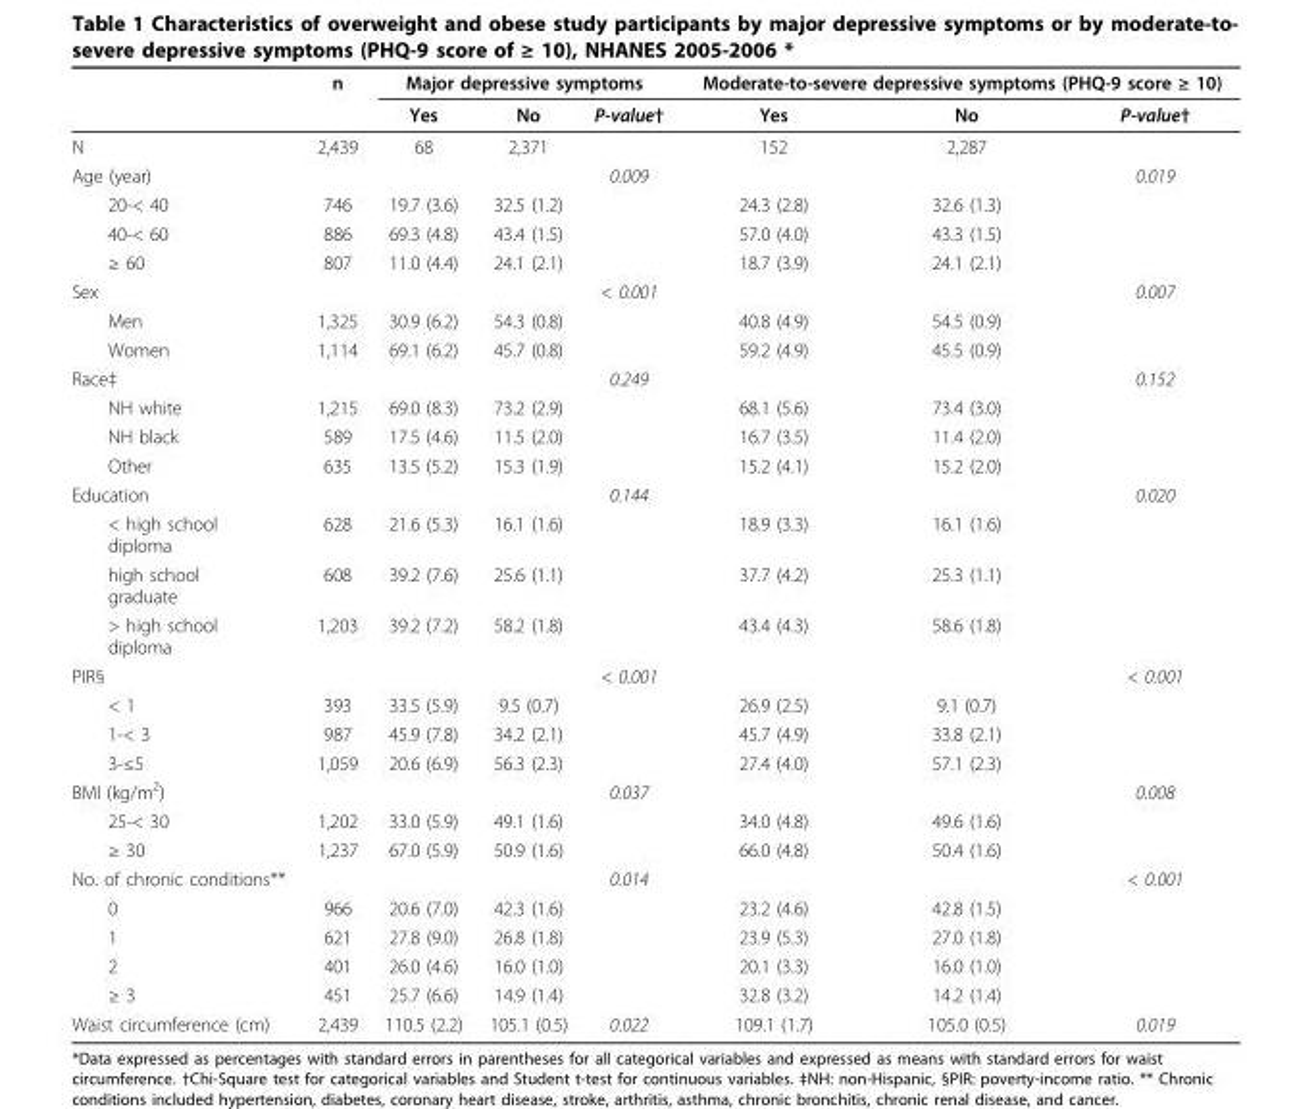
<table><thead><tr><td rowspan="2"></td><td rowspan="2">n</td><td colspan="3">Major depressive symptoms</td><td colspan="3">Moderate-to-severe depressive symptoms (PHQ-9 score ≥ 10)</td></tr><tr><td>Yes</td><td>No</td><td>P-value†</td><td>Yes</td><td>No</td><td>P-value†</td></tr></thead><tbody><tr><td>N</td><td>2,439</td><td>68</td><td>2,371</td><td></td><td>152</td><td>2,287</td><td></td></tr><tr><td>Age (year)</td><td></td><td></td><td></td><td>0.009</td><td></td><td></td><td>0.019</td></tr><tr><td>20-&lt; 40</td><td>746</td><td>19.7 (3.6)</td><td>32.5 (1.2)</td><td></td><td>24.3 (2.8)</td><td>32.6 (1.3)</td><td></td></tr><tr><td>40-&lt; 60</td><td>886</td><td>69.3 (4.8)</td><td>43.4 (1.5)</td><td></td><td>57.0 (4.0)</td><td>43.3 (1.5)</td><td></td></tr><tr><td>≥ 60</td><td>807</td><td>11.0 (4.4)</td><td>24.1 (2.1)</td><td></td><td>18.7 (3.9)</td><td>24.1 (2.1)</td><td></td></tr><tr><td>Sex</td><td></td><td></td><td></td><td>&lt; 0.001</td><td></td><td></td><td>0.007</td></tr><tr><td>Men</td><td>1,325</td><td>30.9 (6.2)</td><td>54.3 (0.8)</td><td></td><td>40.8 (4.9)</td><td>54.5 (0.9)</td><td></td></tr><tr><td>Women</td><td>1,114</td><td>69.1 (6.2)</td><td>45.7 (0.8)</td><td></td><td>59.2 (4.9)</td><td>45.5 (0.9)</td><td></td></tr><tr><td>Race‡</td><td></td><td></td><td></td><td>0.249</td><td></td><td></td><td>0.152</td></tr><tr><td>NH white</td><td>1,215</td><td>69.0 (8.3)</td><td>73.2 (2.9)</td><td></td><td>68.1 (5.6)</td><td>73.4 (3.0)</td><td></td></tr><tr><td>NH black</td><td>589</td><td>17.5 (4.6)</td><td>11.5 (2.0)</td><td></td><td>16.7 (3.5)</td><td>11.4 (2.0)</td><td></td></tr><tr><td>Other</td><td>635</td><td>13.5 (5.2)</td><td>15.3 (1.9)</td><td></td><td>15.2 (4.1)</td><td>15.2 (2.0)</td><td></td></tr><tr><td>Education</td><td></td><td></td><td></td><td>0.144</td><td></td><td></td><td>0.020</td></tr><tr><td>&lt; high school diploma</td><td>628</td><td>21.6 (5.3)</td><td>16.1 (1.6)</td><td></td><td>18.9 (3.3)</td><td>16.1 (1.6)</td><td></td></tr><tr><td>high school graduate</td><td>608</td><td>39.2 (7.6)</td><td>25.6 (1.1)</td><td></td><td>37.7 (4.2)</td><td>25.3 (1.1)</td><td></td></tr><tr><td>&gt; high school diploma</td><td>1,203</td><td>39.2 (7.2)</td><td>58.2 (1.8)</td><td></td><td>43.4 (4.3)</td><td>58.6 (1.8)</td><td></td></tr><tr><td>PIR§</td><td></td><td></td><td></td><td>&lt; 0.001</td><td></td><td></td><td>&lt; 0.001</td></tr><tr><td>&lt; 1</td><td>393</td><td>33.5 (5.9)</td><td>9.5 (0.7)</td><td></td><td>26.9 (2.5)</td><td>9.1 (0.7)</td><td></td></tr><tr><td>1-&lt; 3</td><td>987</td><td>45.9 (7.8)</td><td>34.2 (2.1)</td><td></td><td>45.7 (4.9)</td><td>33.8 (2.1)</td><td></td></tr><tr><td>3-≤5</td><td>1,059</td><td>20.6 (6.9)</td><td>56.3 (2.3)</td><td></td><td>27.4 (4.0)</td><td>57.1 (2.3)</td><td></td></tr><tr><td>BMI (kg/m<sup>2</sup>)</td><td></td><td></td><td></td><td>0.037</td><td></td><td></td><td>0.008</td></tr><tr><td>25-&lt; 30</td><td>1,202</td><td>33.0 (5.9)</td><td>49.1 (1.6)</td><td></td><td>34.0 (4.8)</td><td>49.6 (1.6)</td><td></td></tr><tr><td>≥ 30</td><td>1,237</td><td>67.0 (5.9)</td><td>50.9 (1.6)</td><td></td><td>66.0 (4.8)</td><td>50.4 (1.6)</td><td></td></tr><tr><td>No. of chronic conditions**</td><td></td><td></td><td></td><td>0.014</td><td></td><td></td><td>&lt; 0.001</td></tr><tr><td>0</td><td>966</td><td>20.6 (7.0)</td><td>42.3 (1.6)</td><td></td><td>23.2 (4.6)</td><td>42.8 (1.5)</td><td></td></tr><tr><td>1</td><td>621</td><td>27.8 (9.0)</td><td>26.8 (1.8)</td><td></td><td>23.9 (5.3)</td><td>27.0 (1.8)</td><td></td></tr><tr><td>2</td><td>401</td><td>26.0 (4.6)</td><td>16.0 (1.0)</td><td></td><td>20.1 (3.3)</td><td>16.0 (1.0)</td><td></td></tr><tr><td>≥ 3</td><td>451</td><td>25.7 (6.6)</td><td>14.9 (1.4)</td><td></td><td>32.8 (3.2)</td><td>14.2 (1.4)</td><td></td></tr><tr><td>Waist circumference (cm)</td><td>2,439</td><td>110.5 (2.2)</td><td>105.1 (0.5)</td><td>0.022</td><td>109.1 (1.7)</td><td>105.0 (0.5)</td><td>0.019</td></tr></tbody></table>